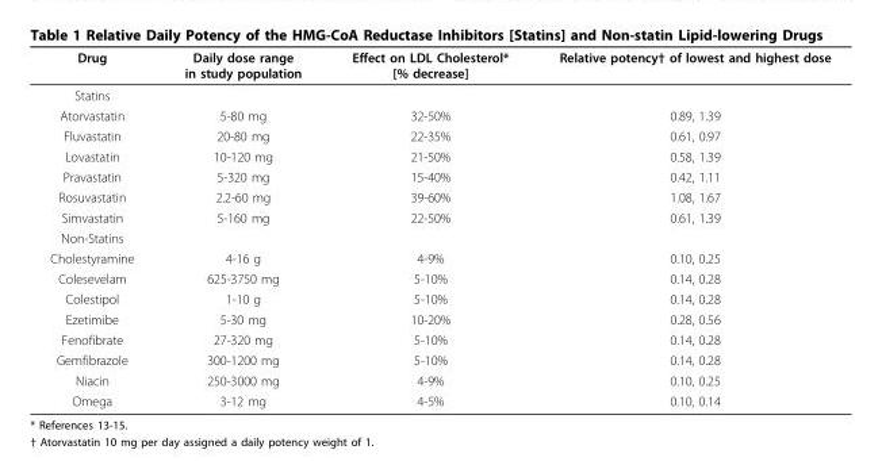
<table><thead><tr><td>Drug</td><td>Daily dose range in study population</td><td>Effect on LDL Cholesterol* [% decrease]</td><td>Relative potency† of lowest and highest dose</td></tr></thead><tbody><tr><td colspan="4">Statins</td></tr><tr><td>Atorvastatin</td><td>5-80 mg</td><td>32-50%</td><td>0.89, 1.39</td></tr><tr><td>Fluvastatin</td><td>20-80 mg</td><td>22-35%</td><td>0.61, 0.97</td></tr><tr><td>Lovastatin</td><td>10-120 mg</td><td>21-50%</td><td>0.58, 1.39</td></tr><tr><td>Pravastatin</td><td>5-320 mg</td><td>15-40%</td><td>0.42, 1.11</td></tr><tr><td>Rosuvastatin</td><td>2.2-60 mg</td><td>39-60%</td><td>1.08, 1.67</td></tr><tr><td>Simvastatin</td><td>5-160 mg</td><td>22-50%</td><td>0.61, 1.39</td></tr><tr><td colspan="4">Non-Statins</td></tr><tr><td>Cholestyramine</td><td>4-16 g</td><td>4-9%</td><td>0.10, 0.25</td></tr><tr><td>Colesevelam</td><td>625-3750 mg</td><td>5-10%</td><td>0.14, 0.28</td></tr><tr><td>Colestipol</td><td>1-10 g</td><td>5-10%</td><td>0.14, 0.28</td></tr><tr><td>Ezetimibe</td><td>5-30 mg</td><td>10-20%</td><td>0.28, 0.56</td></tr><tr><td>Fenofibrate</td><td>27-320 mg</td><td>5-10%</td><td>0.14, 0.28</td></tr><tr><td>Gemfibrazole</td><td>300-1200 mg</td><td>5-10%</td><td>0.14, 0.28</td></tr><tr><td>Niacin</td><td>250-3000 mg</td><td>4-9%</td><td>0.10, 0.25</td></tr><tr><td>Omega</td><td>3-12 mg</td><td>4-5%</td><td>0.10, 0.14</td></tr></tbody></table>